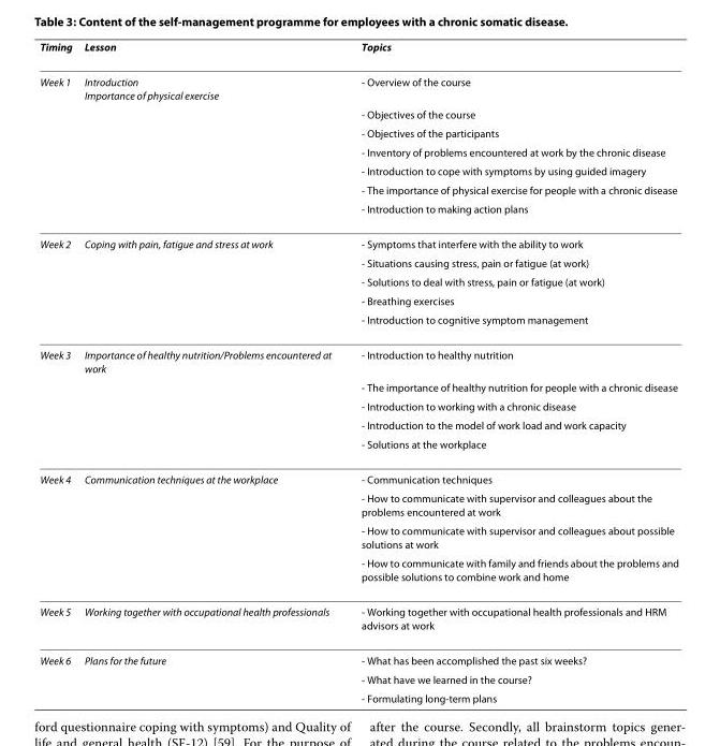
<table><thead><tr><td>Timing</td><td>Lesson</td><td>Topics</td></tr></thead><tbody><tr><td rowspan="7">Week 1</td><td>Introduction Importance of physical exercise</td><td>- Overview of the course</td></tr><tr><td></td><td>- Objectives of the course</td></tr><tr><td></td><td>- Objectives of the participants</td></tr><tr><td></td><td>- Inventory of problems encountered at work by the chronic disease</td></tr><tr><td></td><td>- Introduction to cope with symptoms by using guided imagery</td></tr><tr><td></td><td>- The importance of physical exercise for people with a chronic disease</td></tr><tr><td></td><td>- Introduction to making action plans</td></tr><tr><td rowspan="5">Week 2</td><td>Coping with pain, fatigue and stress at work</td><td>- Symptoms that interfere with the ability to work</td></tr><tr><td></td><td>- Situations causing stress, pain or fatigue (at work)</td></tr><tr><td></td><td>- Solutions to deal with stress, pain or fatigue (at work)</td></tr><tr><td></td><td>- Breathing exercises</td></tr><tr><td></td><td>- Introduction to cognitive symptom management</td></tr><tr><td rowspan="5">Week 3</td><td>Importance of healthy nutrition/Problems encountered at work</td><td>- Introduction to healthy nutrition</td></tr><tr><td></td><td>- The importance of healthy nutrition for people with a chronic disease</td></tr><tr><td></td><td>- Introduction to working with a chronic disease</td></tr><tr><td></td><td>- Introduction to the model of work load and work capacity</td></tr><tr><td></td><td>- Solutions at the workplace</td></tr><tr><td rowspan="4">Week 4</td><td>Communication techniques at the workplace</td><td>- Communication techniques</td></tr><tr><td></td><td>- How to communicate with supervisor and colleagues about the problems encountered at work</td></tr><tr><td></td><td>- How to communicate with supervisor and colleagues about possible solutions at work</td></tr><tr><td></td><td>- How to communicate with family and friends about the problems and possible solutions to combine work and home</td></tr><tr><td>Week 5</td><td>Working together with occupational health professionals</td><td>- Working together with occupational health professionals and HRM advisors at work</td></tr><tr><td rowspan="3">Week 6</td><td>Plans for the future</td><td>- What has been accomplished the past six weeks?</td></tr><tr><td></td><td>- What have we learned in the course?</td></tr><tr><td></td><td>- Formulating long-term plans</td></tr></tbody></table>